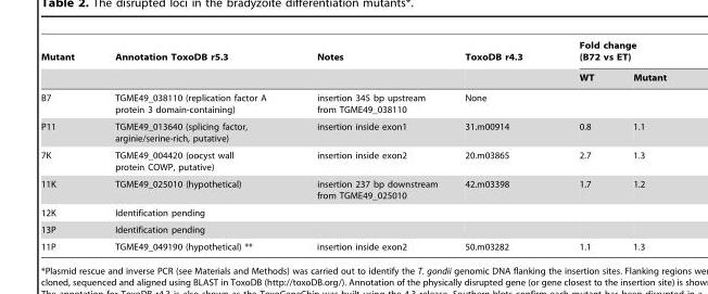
<table><thead><tr><td rowspan="2">Mutant</td><td rowspan="2">Annotation ToxoDB r5.3</td><td rowspan="2">Notes</td><td rowspan="2">ToxoDB r4.3</td><td colspan="2">Fold change (B72 vs ET)</td></tr><tr><td>WT</td><td>Mutant</td></tr></thead><tbody><tr><td>B7</td><td>TGME49_038110 (replication factor A protein 3 domain-containing)</td><td>insertion 345 bp upstream from TGME49_038110</td><td>None</td><td></td><td></td></tr><tr><td>P11</td><td>TGME49_013640 (splicing factor, arginie/serine-rich, putative)</td><td>insertion inside exon1</td><td>31.m00914</td><td>0.8</td><td>1.1</td></tr><tr><td>7K</td><td>TGME49_004420 (oocyst wall protein COWP, putative)</td><td>insertion inside exon2</td><td>20.m03865</td><td>2.7</td><td>1.3</td></tr><tr><td>11K</td><td>TGME49_025010 (hypothetical)</td><td>insertion 237 bp downstream from TGME49_025010</td><td>42.m03398</td><td>1.7</td><td>1.2</td></tr><tr><td>12K</td><td>Identification pending</td><td></td><td></td><td></td><td></td></tr><tr><td>13P</td><td>Identification pending</td><td></td><td></td><td></td><td></td></tr><tr><td>11P</td><td>TGME49_049190 (hypothetical) **</td><td>insertion inside exon2</td><td>50.m03282</td><td>1.1</td><td>1.3</td></tr></tbody></table>